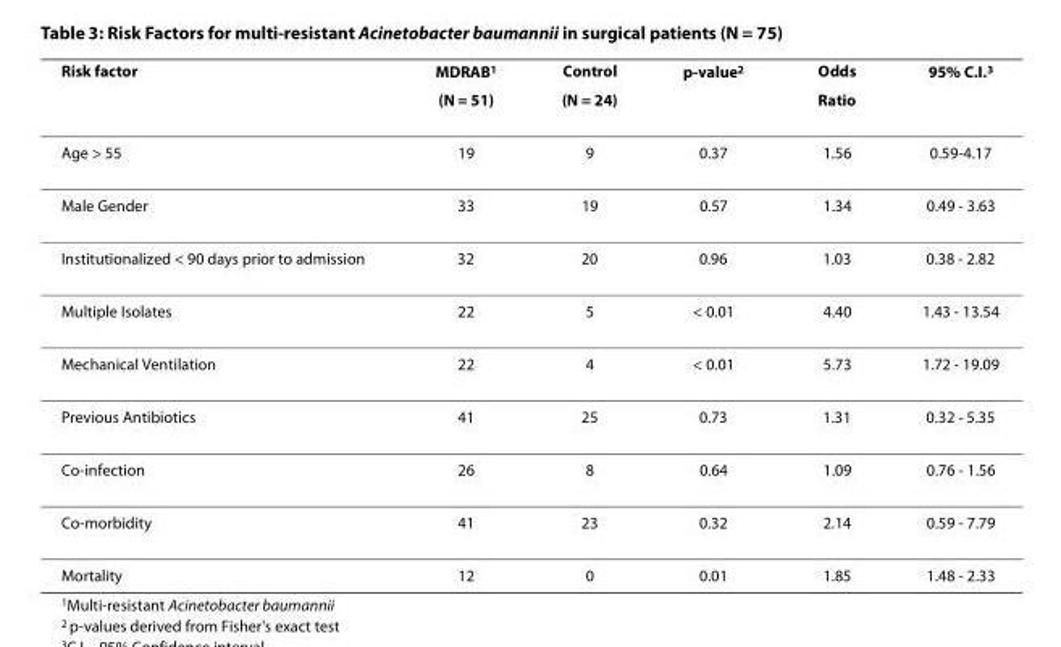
<table><thead><tr><td rowspan="2">Risk factor</td><td rowspan="2">MDRAB<sup>1</sup> (N = 51)</td><td rowspan="2">Control (N = 24)</td><td rowspan="2">p-value<sup>2</sup></td><td rowspan="2">Odds Ratio</td><td rowspan="2">95% C.I.<sup>3</sup></td></tr><tr></tr></thead><tbody><tr><td>Age &gt; 55</td><td>19</td><td>9</td><td>0.37</td><td>1.56</td><td>0.59-4.17</td></tr><tr><td>Male Gender</td><td>33</td><td>19</td><td>0.57</td><td>1.34</td><td>0.49 - 3.63</td></tr><tr><td>Institutionalized &lt; 90 days prior to admission</td><td>32</td><td>20</td><td>0.96</td><td>1.03</td><td>0.38 - 2.82</td></tr><tr><td>Multiple Isolates</td><td>22</td><td>5</td><td>&lt; 0.01</td><td>4.40</td><td>1.43 - 13.54</td></tr><tr><td>Mechanical Ventilation</td><td>22</td><td>4</td><td>&lt; 0.01</td><td>5.73</td><td>1.72 - 19.09</td></tr><tr><td>Previous Antibiotics</td><td>41</td><td>25</td><td>0.73</td><td>1.31</td><td>0.32 - 5.35</td></tr><tr><td>Co-infection</td><td>26</td><td>8</td><td>0.64</td><td>1.09</td><td>0.76 - 1.56</td></tr><tr><td>Co-morbidity</td><td>41</td><td>23</td><td>0.32</td><td>2.14</td><td>0.59 - 7.79</td></tr><tr><td>Mortality</td><td>12</td><td>0</td><td>0.01</td><td>1.85</td><td>1.48 - 2.33</td></tr></tbody></table>